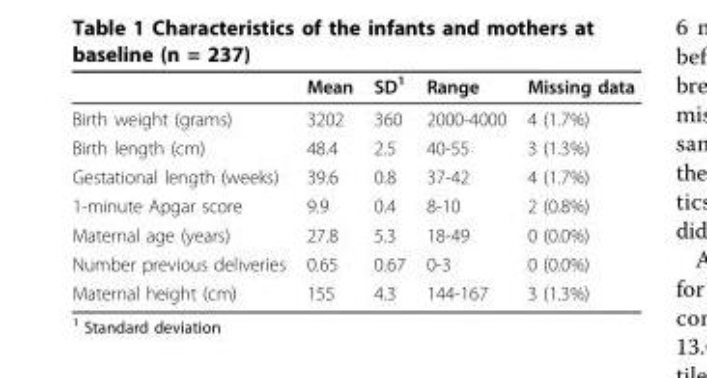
<table><thead><tr><td></td><td>Mean</td><td>SD<sup>1</sup></td><td>Range</td><td>Missing data</td></tr></thead><tbody><tr><td>Birth weight (grams)</td><td>3202</td><td>360</td><td>2000-4000</td><td>4 (1.7%)</td></tr><tr><td>Birth length (cm)</td><td>48.4</td><td>2.5</td><td>40-55</td><td>3 (1.3%)</td></tr><tr><td>Gestational length (weeks)</td><td>39.6</td><td>0.8</td><td>37-42</td><td>4 (1.7%)</td></tr><tr><td>1-minute Apgar score</td><td>9.9</td><td>0.4</td><td>8-10</td><td>2 (0.8%)</td></tr><tr><td>Maternal age (years)</td><td>27.8</td><td>5.3</td><td>18-49</td><td>0 (0.0%)</td></tr><tr><td>Number previous deliveries</td><td>0.65</td><td>0.67</td><td>0-3</td><td>0 (0.0%)</td></tr><tr><td>Maternal height (cm)</td><td>155</td><td>4.3</td><td>144-167</td><td>3 (1.3%)</td></tr></tbody></table>